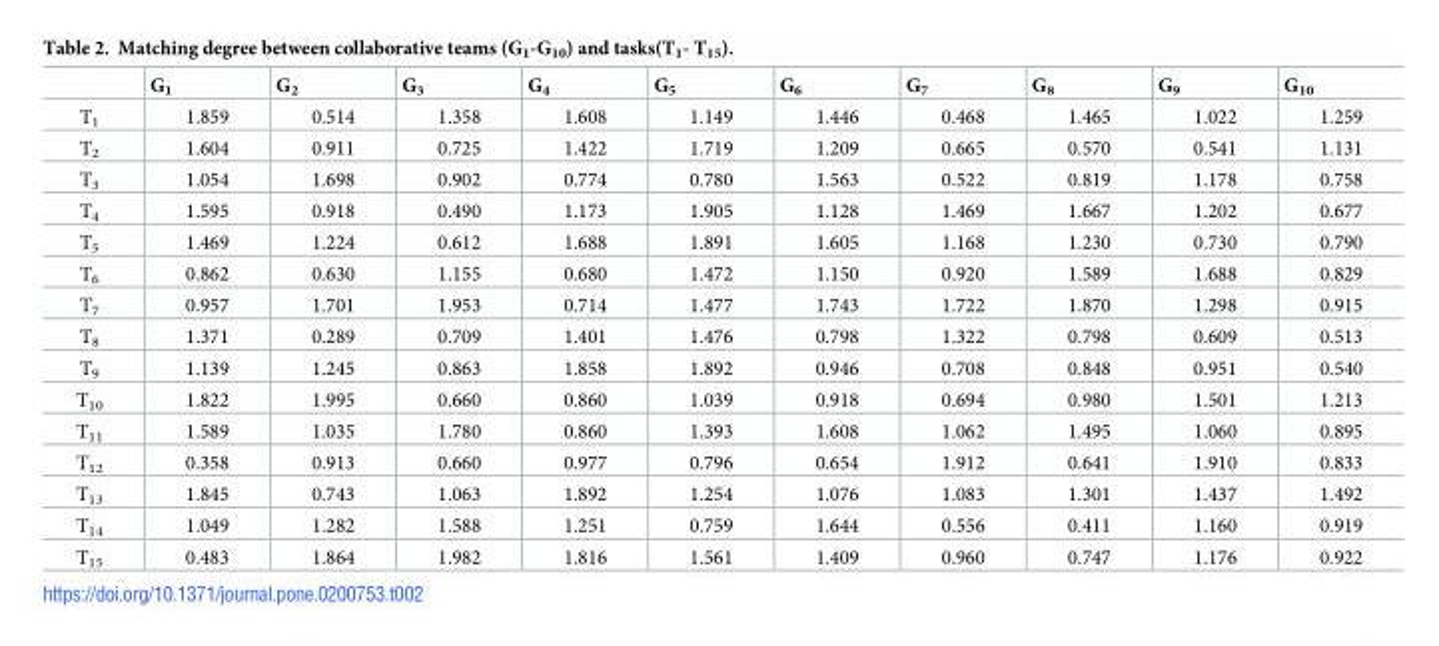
<table><thead><tr><td></td><td>G<sub>1</sub></td><td>G<sub>2</sub></td><td>G<sub>3</sub></td><td>G<sub>4</sub></td><td>G<sub>5</sub></td><td>G<sub>6</sub></td><td>G<sub>7</sub></td><td>G<sub>8</sub></td><td>G<sub>9</sub></td><td>G<sub>10</sub></td></tr></thead><tbody><tr><td>T<sub>1</sub></td><td>1.859</td><td>0.514</td><td>1.358</td><td>1.608</td><td>1.149</td><td>1.446</td><td>0.468</td><td>1.465</td><td>1.022</td><td>1.259</td></tr><tr><td>T<sub>2</sub></td><td>1.604</td><td>0.911</td><td>0.725</td><td>1.422</td><td>1.719</td><td>1.209</td><td>0.665</td><td>0.570</td><td>0.541</td><td>1.131</td></tr><tr><td>T<sub>3</sub></td><td>1.054</td><td>1.698</td><td>0.902</td><td>0.774</td><td>0.780</td><td>1.563</td><td>0.522</td><td>0.819</td><td>1.178</td><td>0.758</td></tr><tr><td>T<sub>4</sub></td><td>1.595</td><td>0.918</td><td>0.490</td><td>1.173</td><td>1.905</td><td>1.128</td><td>1.469</td><td>1.667</td><td>1.202</td><td>0.677</td></tr><tr><td>T<sub>5</sub></td><td>1.469</td><td>1.224</td><td>0.612</td><td>1.688</td><td>1.891</td><td>1.605</td><td>1.168</td><td>1.230</td><td>0.730</td><td>0.790</td></tr><tr><td>T<sub>6</sub></td><td>0.862</td><td>0.630</td><td>1.155</td><td>0.680</td><td>1.472</td><td>1.150</td><td>0.920</td><td>1.589</td><td>1.688</td><td>0.829</td></tr><tr><td>T<sub>7</sub></td><td>0.957</td><td>1.701</td><td>1.953</td><td>0.714</td><td>1.477</td><td>1.743</td><td>1.722</td><td>1.870</td><td>1.298</td><td>0.915</td></tr><tr><td>T<sub>8</sub></td><td>1.371</td><td>0.289</td><td>0.709</td><td>1.401</td><td>1.476</td><td>0.798</td><td>1.322</td><td>0.798</td><td>0.609</td><td>0.513</td></tr><tr><td>T<sub>9</sub></td><td>1.139</td><td>1.245</td><td>0.863</td><td>1.858</td><td>1.892</td><td>0.946</td><td>0.708</td><td>0.848</td><td>0.951</td><td>0.540</td></tr><tr><td>T<sub>10</sub></td><td>1.822</td><td>1.995</td><td>0.660</td><td>0.860</td><td>1.039</td><td>0.918</td><td>0.694</td><td>0.980</td><td>1.501</td><td>1.213</td></tr><tr><td>T<sub>11</sub></td><td>1.589</td><td>1.035</td><td>1.780</td><td>0.860</td><td>1.393</td><td>1.608</td><td>1.062</td><td>1.495</td><td>1.060</td><td>0.895</td></tr><tr><td>T<sub>12</sub></td><td>0.358</td><td>0.913</td><td>0.660</td><td>0.977</td><td>0.796</td><td>0.654</td><td>1.912</td><td>0.641</td><td>1.910</td><td>0.833</td></tr><tr><td>T<sub>13</sub></td><td>1.845</td><td>0.743</td><td>1.063</td><td>1.892</td><td>1.254</td><td>1.076</td><td>1.083</td><td>1.301</td><td>1.437</td><td>1.492</td></tr><tr><td>T<sub>14</sub></td><td>1.049</td><td>1.282</td><td>1.588</td><td>1.251</td><td>0.759</td><td>1.644</td><td>0.556</td><td>0.411</td><td>1.160</td><td>0.919</td></tr><tr><td>T<sub>15</sub></td><td>0.483</td><td>1.864</td><td>1.982</td><td>1.816</td><td>1.561</td><td>1.409</td><td>0.960</td><td>0.747</td><td>1.176</td><td>0.922</td></tr></tbody></table>